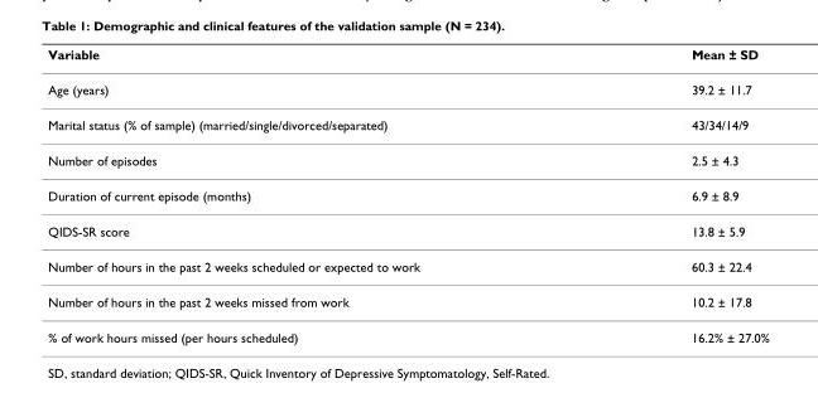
<table><thead><tr><td>Variable</td><td>Mean ± SD</td></tr></thead><tbody><tr><td>Age (years)</td><td>39.2 ± 11.7</td></tr><tr><td>Marital status (% of sample) (married/single/divorced/separated)</td><td>43/34/14/9</td></tr><tr><td>Number of episodes</td><td>2.5 ± 4.3</td></tr><tr><td>Duration of current episode (months)</td><td>6.9 ± 8.9</td></tr><tr><td>QIDS-SR score</td><td>13.8 ± 5.9</td></tr><tr><td>Number of hours in the past 2 weeks scheduled or expected to work</td><td>60.3 ± 22.4</td></tr><tr><td>Number of hours in the past 2 weeks missed from work</td><td>10.2 ± 17.8</td></tr><tr><td>% of work hours missed (per hours scheduled)</td><td>16.2% ± 27.0%</td></tr></tbody></table>